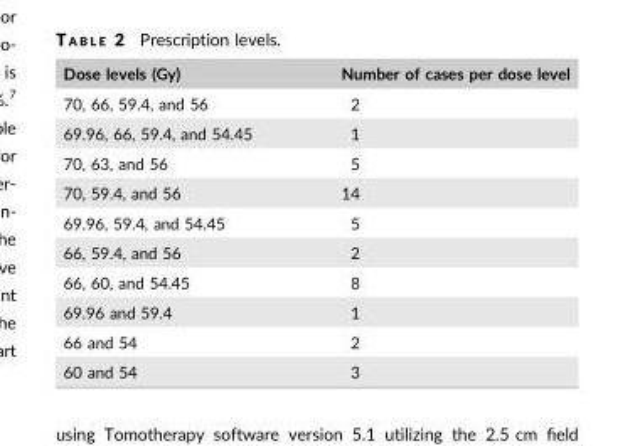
<table><thead><tr><td>Dose levels (Gy)</td><td>Number of cases per dose level</td></tr></thead><tbody><tr><td>70, 66, 59.4, and 56</td><td>2</td></tr><tr><td>69.96, 66, 59.4, and 54.45</td><td>1</td></tr><tr><td>70, 63, and 56</td><td>5</td></tr><tr><td>70, 59.4, and 56</td><td>14</td></tr><tr><td>69.96, 59.4, and 54.45</td><td>5</td></tr><tr><td>66, 59.4, and 56</td><td>2</td></tr><tr><td>66, 60, and 54.45</td><td>8</td></tr><tr><td>69.96 and 59.4</td><td>1</td></tr><tr><td>66 and 54</td><td>2</td></tr><tr><td>60 and 54</td><td>3</td></tr></tbody></table>